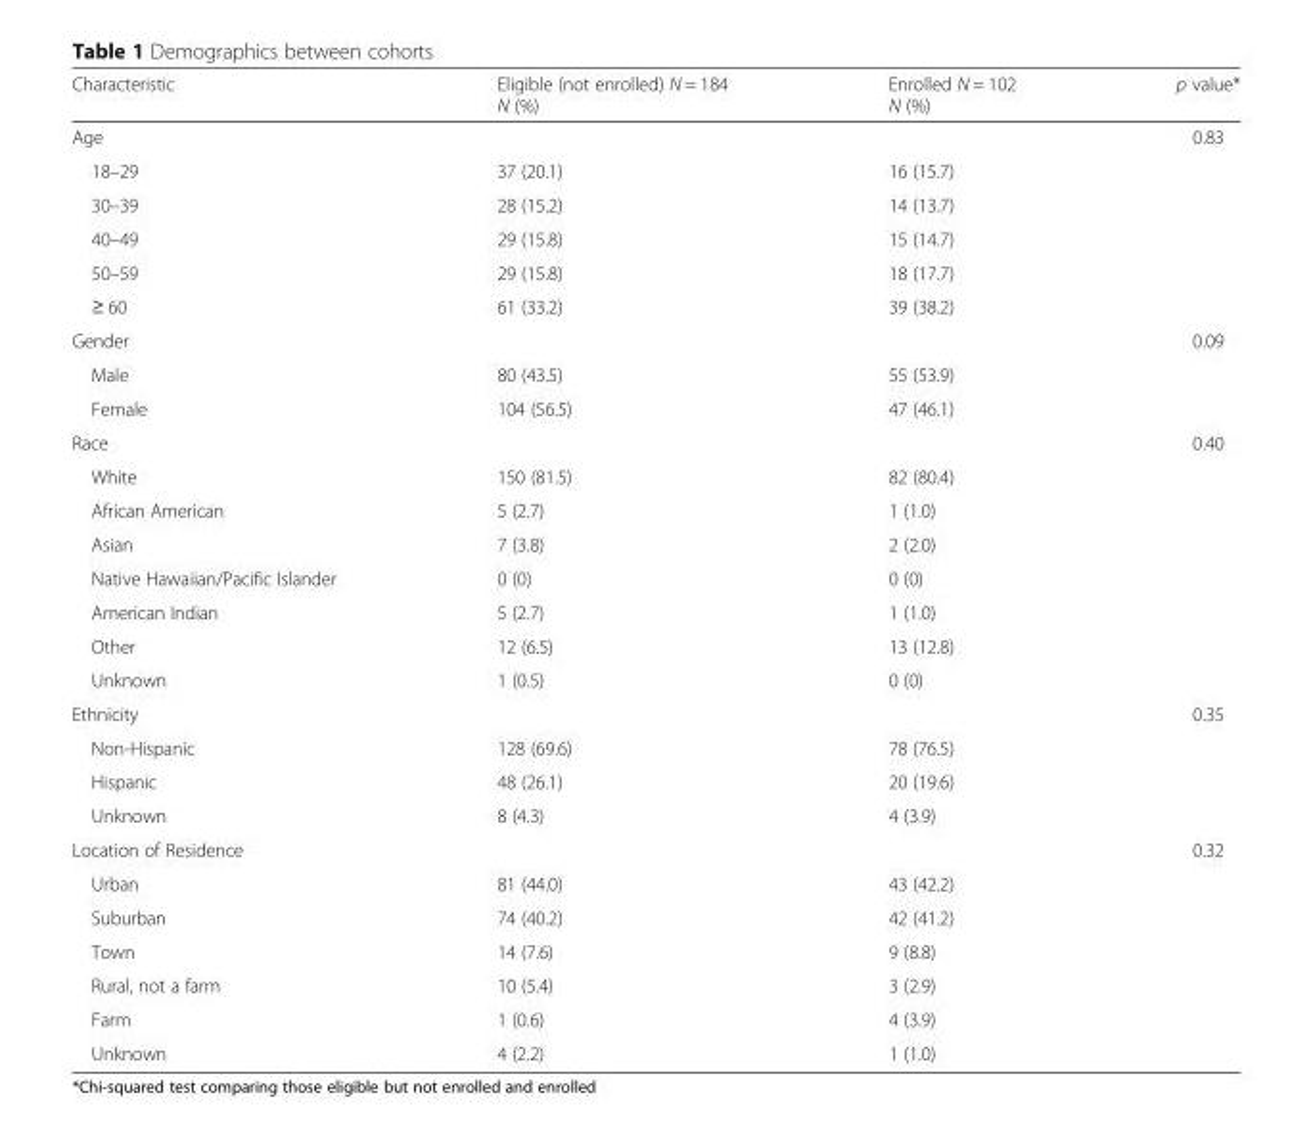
<table><thead><tr><td>Characteristic</td><td>Eligible (not enrolled) N = 184 N (%)</td><td>Enrolled N = 102 N (%)</td><td>p value*</td></tr></thead><tbody><tr><td>Age</td><td></td><td></td><td>0.83</td></tr><tr><td>18–29</td><td>37 (20.1)</td><td>16 (15.7)</td><td></td></tr><tr><td>30–39</td><td>28 (15.2)</td><td>14 (13.7)</td><td></td></tr><tr><td>40–49</td><td>29 (15.8)</td><td>15 (14.7)</td><td></td></tr><tr><td>50–59</td><td>29 (15.8)</td><td>18 (17.7)</td><td></td></tr><tr><td>≥ 60</td><td>61 (33.2)</td><td>39 (38.2)</td><td></td></tr><tr><td>Gender</td><td></td><td></td><td>0.09</td></tr><tr><td>Male</td><td>80 (43.5)</td><td>55 (53.9)</td><td></td></tr><tr><td>Female</td><td>104 (56.5)</td><td>47 (46.1)</td><td></td></tr><tr><td>Race</td><td></td><td></td><td>0.40</td></tr><tr><td>White</td><td>150 (81.5)</td><td>82 (80.4)</td><td></td></tr><tr><td>African American</td><td>5 (2.7)</td><td>1 (1.0)</td><td></td></tr><tr><td>Asian</td><td>7 (3.8)</td><td>2 (2.0)</td><td></td></tr><tr><td>Native Hawaiian/Pacific Islander</td><td>0 (0)</td><td>0 (0)</td><td></td></tr><tr><td>American Indian</td><td>5 (2.7)</td><td>1 (1.0)</td><td></td></tr><tr><td>Other</td><td>12 (6.5)</td><td>13 (12.8)</td><td></td></tr><tr><td>Unknown</td><td>1 (0.5)</td><td>0 (0)</td><td></td></tr><tr><td>Ethnicity</td><td></td><td></td><td>0.35</td></tr><tr><td>Non-Hispanic</td><td>128 (69.6)</td><td>78 (76.5)</td><td></td></tr><tr><td>Hispanic</td><td>48 (26.1)</td><td>20 (19.6)</td><td></td></tr><tr><td>Unknown</td><td>8 (4.3)</td><td>4 (3.9)</td><td></td></tr><tr><td>Location of Residence</td><td></td><td></td><td>0.32</td></tr><tr><td>Urban</td><td>81 (44.0)</td><td>43 (42.2)</td><td></td></tr><tr><td>Suburban</td><td>74 (40.2)</td><td>42 (41.2)</td><td></td></tr><tr><td>Town</td><td>14 (7.6)</td><td>9 (8.8)</td><td></td></tr><tr><td>Rural, not a farm</td><td>10 (5.4)</td><td>3 (2.9)</td><td></td></tr><tr><td>Farm</td><td>1 (0.6)</td><td>4 (3.9)</td><td></td></tr><tr><td>Unknown</td><td>4 (2.2)</td><td>1 (1.0)</td><td></td></tr></tbody></table>